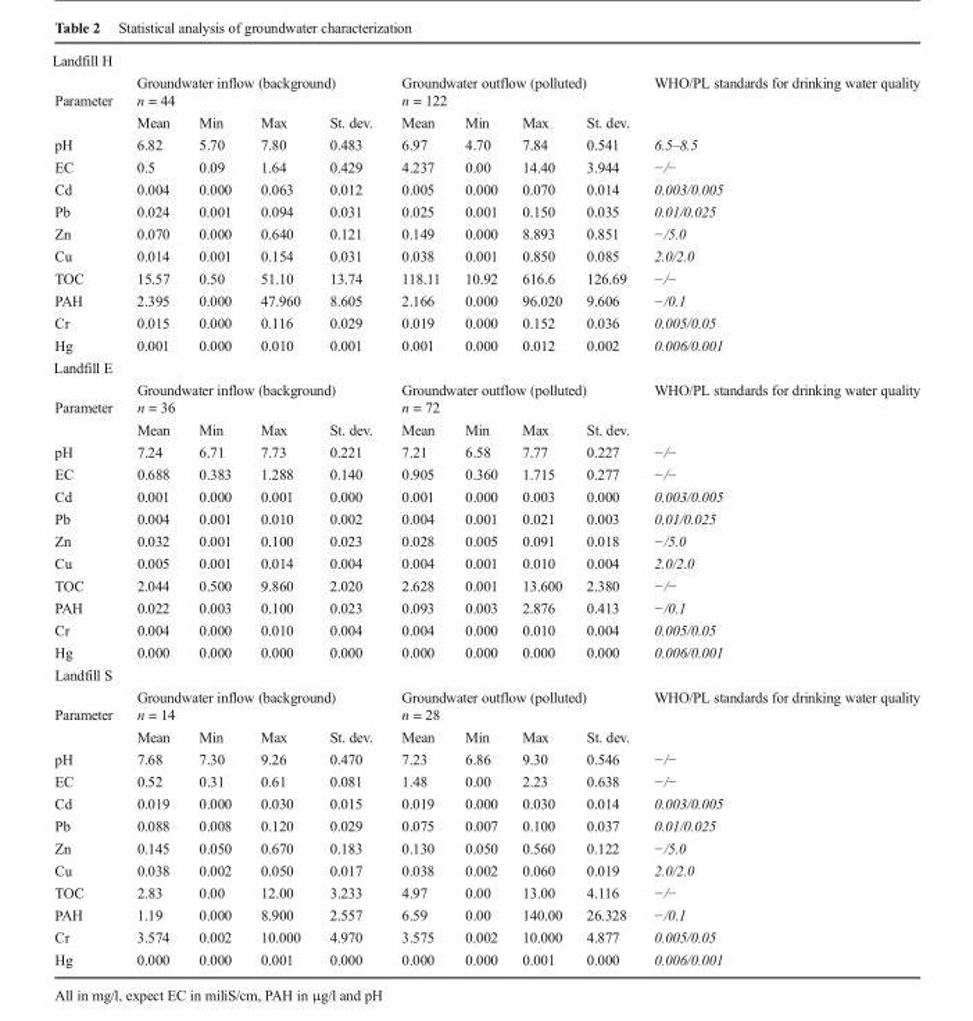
<table><tbody><tr><td colspan="10">Landfill H</td></tr><tr><td></td><td colspan="4">Groundwater inflow (background)</td><td colspan="4">Groundwater outflow (polluted)</td><td rowspan="3">WHO/PL standards for drinking water quality</td></tr><tr><td rowspan="2">Parameter</td><td colspan="4">n = 44</td><td colspan="4">n = 122</td></tr><tr><td>Mean</td><td>Min</td><td>Max</td><td>St. dev.</td><td>Mean</td><td>Min</td><td>Max</td><td>St. dev.</td></tr><tr><td>pH</td><td>6.82</td><td>5.70</td><td>7.80</td><td>0.483</td><td>6.97</td><td>4.70</td><td>7.84</td><td>0.541</td><td>6.5–8.5</td></tr><tr><td>EC</td><td>0.5</td><td>0.09</td><td>1.64</td><td>0.429</td><td>4.237</td><td>0.00</td><td>14.40</td><td>3.944</td><td>−/−</td></tr><tr><td>Cd</td><td>0.004</td><td>0.000</td><td>0.063</td><td>0.012</td><td>0.005</td><td>0.000</td><td>0.070</td><td>0.014</td><td>0.003/0.005</td></tr><tr><td>Pb</td><td>0.024</td><td>0.001</td><td>0.094</td><td>0.031</td><td>0.025</td><td>0.001</td><td>0.150</td><td>0.035</td><td>0.01/0.025</td></tr><tr><td>Zn</td><td>0.070</td><td>0.000</td><td>0.640</td><td>0.121</td><td>0.149</td><td>0.000</td><td>8.893</td><td>0.851</td><td>−/5.0</td></tr><tr><td>Cu</td><td>0.014</td><td>0.001</td><td>0.154</td><td>0.031</td><td>0.038</td><td>0.001</td><td>0.850</td><td>0.085</td><td>2.0/2.0</td></tr><tr><td>TOC</td><td>15.57</td><td>0.50</td><td>51.10</td><td>13.74</td><td>118.11</td><td>10.92</td><td>616.6</td><td>126.69</td><td>−/−</td></tr><tr><td>PAH</td><td>2.395</td><td>0.000</td><td>47.960</td><td>8.605</td><td>2.166</td><td>0.000</td><td>96.020</td><td>9.606</td><td>−/0.1</td></tr><tr><td>Cr</td><td>0.015</td><td>0.000</td><td>0.116</td><td>0.029</td><td>0.019</td><td>0.000</td><td>0.152</td><td>0.036</td><td>0.005/0.05</td></tr><tr><td>Hg</td><td>0.001</td><td>0.000</td><td>0.010</td><td>0.001</td><td>0.001</td><td>0.000</td><td>0.012</td><td>0.002</td><td>0.006/0.001</td></tr><tr><td colspan="10">Landfill E</td></tr><tr><td rowspan="3">Parameter</td><td colspan="4">Groundwater inflow (background)</td><td colspan="4">Groundwater outflow (polluted)</td><td rowspan="3">WHO/PL standards for drinking water quality</td></tr><tr><td colspan="4">n = 36</td><td colspan="4">n = 72</td></tr><tr><td>Mean</td><td>Min</td><td>Max</td><td>St. dev.</td><td>Mean</td><td>Min</td><td>Max</td><td>St. dev.</td></tr><tr><td>pH</td><td>7.24</td><td>6.71</td><td>7.73</td><td>0.221</td><td>7.21</td><td>6.58</td><td>7.77</td><td>0.227</td><td>−/−</td></tr><tr><td>EC</td><td>0.688</td><td>0.383</td><td>1.288</td><td>0.140</td><td>0.905</td><td>0.360</td><td>1.715</td><td>0.277</td><td>−/−</td></tr><tr><td>Cd</td><td>0.001</td><td>0.000</td><td>0.001</td><td>0.000</td><td>0.001</td><td>0.000</td><td>0.003</td><td>0.000</td><td>0.003/0.005</td></tr><tr><td>Pb</td><td>0.004</td><td>0.001</td><td>0.010</td><td>0.002</td><td>0.004</td><td>0.001</td><td>0.021</td><td>0.003</td><td>0.01/0.025</td></tr><tr><td>Zn</td><td>0.032</td><td>0.001</td><td>0.100</td><td>0.023</td><td>0.028</td><td>0.005</td><td>0.091</td><td>0.018</td><td>−/5.0</td></tr><tr><td>Cu</td><td>0.005</td><td>0.001</td><td>0.014</td><td>0.004</td><td>0.004</td><td>0.001</td><td>0.010</td><td>0.004</td><td>2.0/2.0</td></tr><tr><td>TOC</td><td>2.044</td><td>0.500</td><td>9.860</td><td>2.020</td><td>2.628</td><td>0.001</td><td>13.600</td><td>2.380</td><td>−/−</td></tr><tr><td>PAH</td><td>0.022</td><td>0.003</td><td>0.100</td><td>0.023</td><td>0.093</td><td>0.003</td><td>2.876</td><td>0.413</td><td>−/0.1</td></tr><tr><td>Cr</td><td>0.004</td><td>0.000</td><td>0.010</td><td>0.004</td><td>0.004</td><td>0.000</td><td>0.010</td><td>0.004</td><td>0.005/0.05</td></tr><tr><td>Hg</td><td>0.000</td><td>0.000</td><td>0.000</td><td>0.000</td><td>0.000</td><td>0.000</td><td>0.000</td><td>0.000</td><td>0.006/0.001</td></tr><tr><td colspan="10">Landfill S</td></tr><tr><td rowspan="3">Parameter</td><td colspan="4">Groundwater inflow (background)</td><td colspan="4">Groundwater outflow (polluted)</td><td rowspan="3">WHO/PL standards for drinking water quality</td></tr><tr><td colspan="4">n = 14</td><td colspan="4">n = 28</td></tr><tr><td>Mean</td><td>Min</td><td>Max</td><td>St. dev.</td><td>Mean</td><td>Min</td><td>Max</td><td>St. dev.</td></tr><tr><td>pH</td><td>7.68</td><td>7.30</td><td>9.26</td><td>0.470</td><td>7.23</td><td>6.86</td><td>9.30</td><td>0.546</td><td>−/−</td></tr><tr><td>EC</td><td>0.52</td><td>0.31</td><td>0.61</td><td>0.081</td><td>1.48</td><td>0.00</td><td>2.23</td><td>0.638</td><td>−/−</td></tr><tr><td>Cd</td><td>0.019</td><td>0.000</td><td>0.030</td><td>0.015</td><td>0.019</td><td>0.000</td><td>0.030</td><td>0.014</td><td>0.003/0.005</td></tr><tr><td>Pb</td><td>0.088</td><td>0.008</td><td>0.120</td><td>0.029</td><td>0.075</td><td>0.007</td><td>0.100</td><td>0.037</td><td>0.01/0.025</td></tr><tr><td>Zn</td><td>0.145</td><td>0.050</td><td>0.670</td><td>0.183</td><td>0.130</td><td>0.050</td><td>0.560</td><td>0.122</td><td>−/5.0</td></tr><tr><td>Cu</td><td>0.038</td><td>0.002</td><td>0.050</td><td>0.017</td><td>0.038</td><td>0.002</td><td>0.060</td><td>0.019</td><td>2.0/2.0</td></tr><tr><td>TOC</td><td>2.83</td><td>0.00</td><td>12.00</td><td>3.233</td><td>4.97</td><td>0.00</td><td>13.00</td><td>4.116</td><td>−/−</td></tr><tr><td>PAH</td><td>1.19</td><td>0.000</td><td>8.900</td><td>2.557</td><td>6.59</td><td>0.00</td><td>140.00</td><td>26.328</td><td>−/0.1</td></tr><tr><td>Cr</td><td>3.574</td><td>0.002</td><td>10.000</td><td>4.970</td><td>3.575</td><td>0.002</td><td>10.000</td><td>4.877</td><td>0.005/0.05</td></tr><tr><td>Hg</td><td>0.000</td><td>0.000</td><td>0.001</td><td>0.000</td><td>0.000</td><td>0.000</td><td>0.001</td><td>0.000</td><td>0.006/0.001</td></tr></tbody></table>